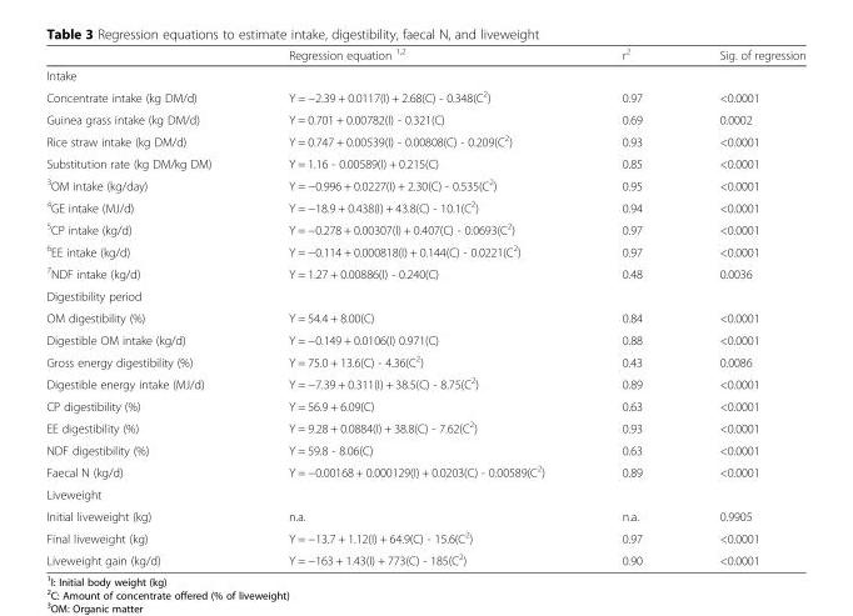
<table><thead><tr><td></td><td>Regression equation <sup>1,2</sup></td><td>r<sup>2</sup></td><td>Sig. of regression</td></tr></thead><tbody><tr><td colspan="4">Intake</td></tr><tr><td>Concentrate intake (kg DM/d)</td><td>Y = −2.39 + 0.0117(I) + 2.68(C) - 0.348(C<sup>2</sup>)</td><td>0.97</td><td>&lt;0.0001</td></tr><tr><td>Guinea grass intake (kg DM/d)</td><td>Y = 0.701 + 0.00782(I) - 0.321(C)</td><td>0.69</td><td>0.0002</td></tr><tr><td>Rice straw intake (kg DM/d)</td><td>Y = 0.747 + 0.00539(I) - 0.00808(C) - 0.209(C<sup>2</sup>)</td><td>0.93</td><td>&lt;0.0001</td></tr><tr><td>Substitution rate (kg DM/kg DM)</td><td>Y = 1.16 - 0.00589(I) + 0.215(C)</td><td>0.85</td><td>&lt;0.0001</td></tr><tr><td><sup>3</sup>OM intake (kg/day)</td><td>Y = −0.996 + 0.0227(I) + 2.30(C) - 0.535(C<sup>2</sup>)</td><td>0.95</td><td>&lt;0.0001</td></tr><tr><td><sup>4</sup>GE intake (MJ/d)</td><td>Y = −18.9 + 0.438(I) + 43.8(C) - 10.1(C<sup>2</sup>)</td><td>0.94</td><td>&lt;0.0001</td></tr><tr><td><sup>5</sup>CP intake (kg/d)</td><td>Y = −0.278 + 0.00307(I) + 0.407(C) - 0.0693(C<sup>2</sup>)</td><td>0.97</td><td>&lt;0.0001</td></tr><tr><td><sup>6</sup>EE intake (kg/d)</td><td>Y = −0.114 + 0.000818(I) + 0.144(C) - 0.0221(C<sup>2</sup>)</td><td>0.97</td><td>&lt;0.0001</td></tr><tr><td><sup>7</sup>NDF intake (kg/d)</td><td>Y = 1.27 + 0.00886(I) - 0.240(C)</td><td>0.48</td><td>0.0036</td></tr><tr><td colspan="4">Digestibility period</td></tr><tr><td>OM digestibility (%)</td><td>Y = 54.4 + 8.00(C)</td><td>0.84</td><td>&lt;0.0001</td></tr><tr><td>Digestible OM intake (kg/d)</td><td>Y = −0.149 + 0.0106(I) 0.971(C)</td><td>0.88</td><td>&lt;0.0001</td></tr><tr><td>Gross energy digestibility (%)</td><td>Y = 75.0 + 13.6(C) - 4.36(C<sup>2</sup>)</td><td>0.43</td><td>0.0086</td></tr><tr><td>Digestible energy intake (MJ/d)</td><td>Y = −7.39 + 0.311(I) + 38.5(C) - 8.75(C<sup>2</sup>)</td><td>0.89</td><td>&lt;0.0001</td></tr><tr><td>CP digestibility (%)</td><td>Y = 56.9 + 6.09(C)</td><td>0.63</td><td>&lt;0.0001</td></tr><tr><td>EE digestibility (%)</td><td>Y = 9.28 + 0.0884(I) + 38.8(C) - 7.62(C<sup>2</sup>)</td><td>0.93</td><td>&lt;0.0001</td></tr><tr><td>NDF digestibility (%)</td><td>Y = 59.8 - 8.06(C)</td><td>0.63</td><td>&lt;0.0001</td></tr><tr><td>Faecal N (kg/d)</td><td>Y = −0.00168 + 0.000129(I) + 0.0203(C) - 0.00589(C<sup>2</sup>)</td><td>0.89</td><td>&lt;0.0001</td></tr><tr><td colspan="4">Liveweight</td></tr><tr><td>Initial liveweight (kg)</td><td>n.a.</td><td>n.a.</td><td>0.9905</td></tr><tr><td>Final liveweight (kg)</td><td>Y = −13.7 + 1.12(I) + 64.9(C) - 15.6(C<sup>2</sup>)</td><td>0.97</td><td>&lt;0.0001</td></tr><tr><td>Liveweight gain (kg/d)</td><td>Y = −163 + 1.43(I) + 773(C) - 185(C<sup>2</sup>)</td><td>0.90</td><td>&lt;0.0001</td></tr></tbody></table>